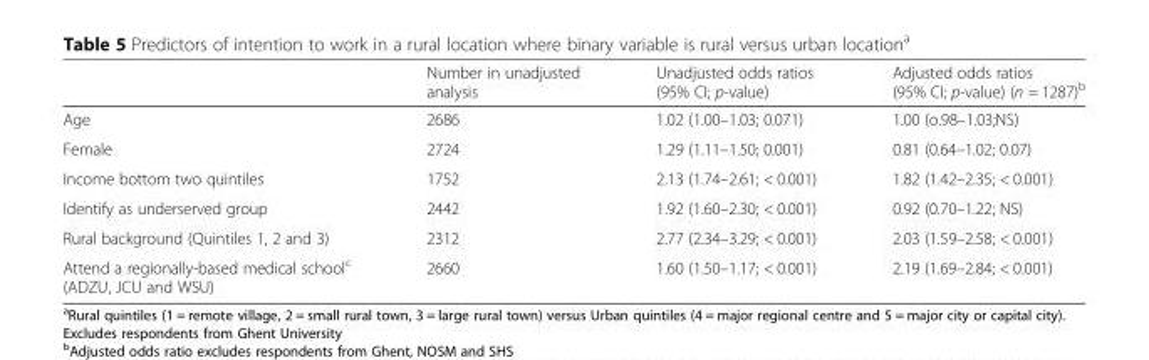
<table><thead><tr><td></td><td>Number in unadjusted analysis</td><td>Unadjusted odds ratios (95% CI; p-value)</td><td>Adjusted odds ratios (95% CI; p-value) (n = 1287)<sup>b</sup></td></tr></thead><tbody><tr><td>Age</td><td>2686</td><td>1.02 (1.00–1.03; 0.071)</td><td>1.00 (o.98–1.03;NS)</td></tr><tr><td>Female</td><td>2724</td><td>1.29 (1.11–1.50; 0.001)</td><td>0.81 (0.64–1.02; 0.07)</td></tr><tr><td>Income bottom two quintiles</td><td>1752</td><td>2.13 (1.74–2.61; &lt; 0.001)</td><td>1.82 (1.42–2.35; &lt; 0.001)</td></tr><tr><td>Identify as underserved group</td><td>2442</td><td>1.92 (1.60–2.30; &lt; 0.001)</td><td>0.92 (0.70–1.22; NS)</td></tr><tr><td>Rural background (Quintiles 1, 2 and 3)</td><td>2312</td><td>2.77 (2.34–3.29; &lt; 0.001)</td><td>2.03 (1.59–2.58; &lt; 0.001)</td></tr><tr><td>Attend a regionally-based medical school<sup>c</sup> (ADZU, JCU and WSU)</td><td>2660</td><td>1.60 (1.50–1.17; &lt; 0.001)</td><td>2.19 (1.69–2.84; &lt; 0.001)</td></tr></tbody></table>